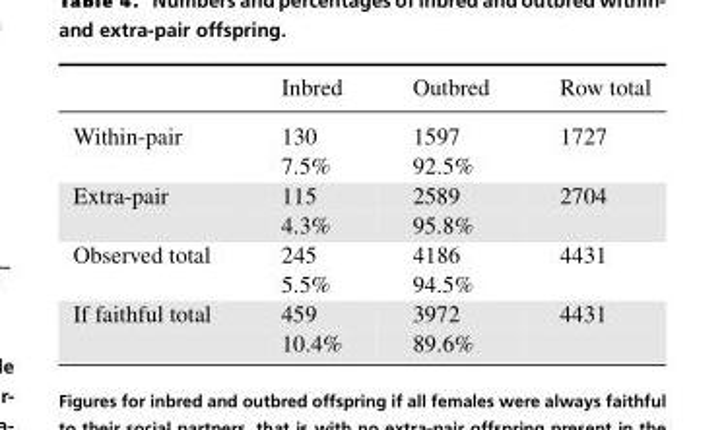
<table><thead><tr><td></td><td>Inbred</td><td>Outbred</td><td>Row total</td></tr></thead><tbody><tr><td rowspan="2">Within-pair</td><td>130</td><td>1597</td><td>1727</td></tr><tr><td>7.5%</td><td>92.5%</td><td></td></tr><tr><td rowspan="2">Extra-pair</td><td>115</td><td>2589</td><td>2704</td></tr><tr><td>4.3%</td><td>95.8%</td><td></td></tr><tr><td rowspan="2">Observed total</td><td>245</td><td>4186</td><td>4431</td></tr><tr><td>5.5%</td><td>94.5%</td><td></td></tr><tr><td rowspan="2">If faithful total</td><td>459</td><td>3972</td><td>4431</td></tr><tr><td>10.4%</td><td>89.6%</td><td></td></tr></tbody></table>